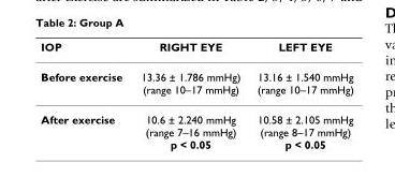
<table><thead><tr><td>IOP</td><td>RIGHT EYE</td><td>LEFT EYE</td></tr></thead><tbody><tr><td>Before exercise</td><td>13.36 ± 1.786 mmHg) (range 10–17 mmHg)</td><td>13.16 ± 1.540 mmHg (range 10–17 mmHg)</td></tr><tr><td>After exercise</td><td>10.6 ± 2.240 mmHg (range 7–16 mmHg) p &lt; 0.05</td><td>10.58 ± 2.105 mmHg (range 8–17 mmHg) p &lt; 0.05</td></tr></tbody></table>